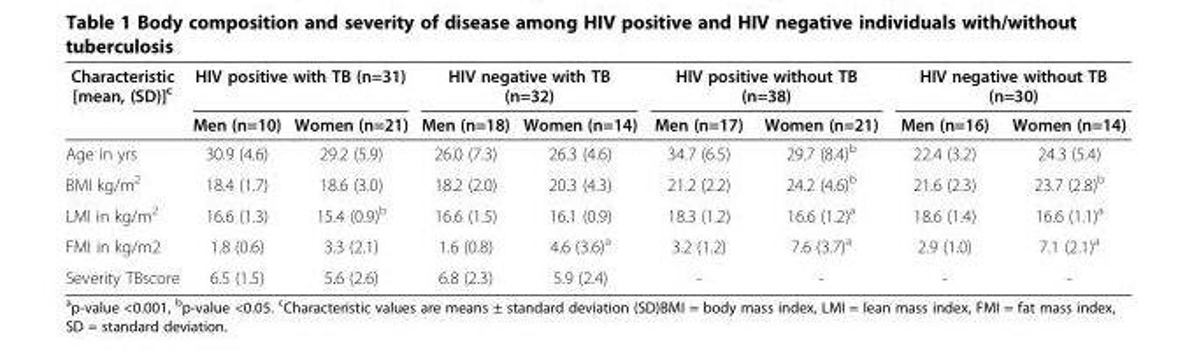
<table><thead><tr><td rowspan="2">Characteristic [mean, (SD)]<sup>c</sup></td><td colspan="2">HIV positive with TB (n=31)</td><td colspan="2">HIV negative with TB (n=32)</td><td colspan="2">HIV positive without TB (n=38)</td><td colspan="2">HIV negative without TB (n=30)</td></tr><tr><td>Men (n=10)</td><td>Women (n=21)</td><td>Men (n=18)</td><td>Women (n=14)</td><td>Men (n=17)</td><td>Women (n=21)</td><td>Men (n=16)</td><td>Women (n=14)</td></tr></thead><tbody><tr><td>Age in yrs</td><td>30.9 (4.6)</td><td>29.2 (5.9)</td><td>26.0 (7.3)</td><td>26.3 (4.6)</td><td>34.7 (6.5)</td><td>29.7 (8.4)<sup>b</sup></td><td>22.4 (3.2)</td><td>24.3 (5.4)</td></tr><tr><td>BMI kg/m<sup>2</sup></td><td>18.4 (1.7)</td><td>18.6 (3.0)</td><td>18.2 (2.0)</td><td>20.3 (4.3)</td><td>21.2 (2.2)</td><td>24.2 (4.6)<sup>b</sup></td><td>21.6 (2.3)</td><td>23.7 (2.8)<sup>b</sup></td></tr><tr><td>LMI in kg/m<sup>2</sup></td><td>16.6 (1.3)</td><td>15.4 (0.9)<sup>b</sup></td><td>16.6 (1.5)</td><td>16.1 (0.9)</td><td>18.3 (1.2)</td><td>16.6 (1.2)<sup>a</sup></td><td>18.6 (1.4)</td><td>16.6 (1.1)<sup>a</sup></td></tr><tr><td>FMI in kg/m2</td><td>1.8 (0.6)</td><td>3.3 (2.1)</td><td>1.6 (0.8)</td><td>4.6 (3.6)<sup>a</sup></td><td>3.2 (1.2)</td><td>7.6 (3.7)<sup>a</sup></td><td>2.9 (1.0)</td><td>7.1 (2.1)<sup>a</sup></td></tr><tr><td>Severity TBscore</td><td>6.5 (1.5)</td><td>5.6 (2.6)</td><td>6.8 (2.3)</td><td>5.9 (2.4)</td><td>-</td><td>-</td><td>-</td><td>-</td></tr></tbody></table>